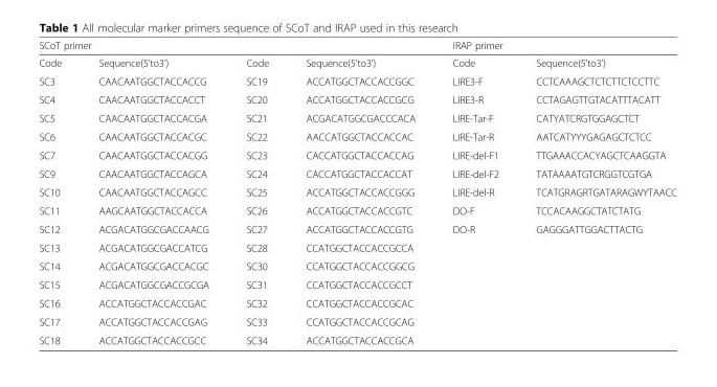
<table><thead><tr><td colspan="4">SCoT primer</td><td colspan="2">IRAP primer</td></tr><tr><td>Code</td><td>Sequence(5’to3’)</td><td>Code</td><td>Sequence(5’to3’)</td><td>Code</td><td>Sequence(5’to3’)</td></tr></thead><tbody><tr><td>SC3</td><td>CAACAATGGCTACCACCG</td><td>SC19</td><td>ACCATGGCTACCACCGGC</td><td>LIRE3-F</td><td>CCTCAAAGCTCTCTTCTCCTTC</td></tr><tr><td>SC4</td><td>CAACAATGGCTACCACCT</td><td>SC20</td><td>ACCATGGCTACCACCGCG</td><td>LIRE3-R</td><td>CCTAGAGTTGTACATTTACATT</td></tr><tr><td>SC5</td><td>CAACAATGGCTACCACGA</td><td>SC21</td><td>ACGACATGGCGACCCACA</td><td>LIRE-Tar-F</td><td>CATYATCRGTGGAGCTCT</td></tr><tr><td>SC6</td><td>CAACAATGGCTACCACGC</td><td>SC22</td><td>AACCATGGCTACCACCAC</td><td>LIRE-Tar-R</td><td>AATCATYYYGAGAGCTCTCC</td></tr><tr><td>SC7</td><td>CAACAATGGCTACCACGG</td><td>SC23</td><td>CACCATGGCTACCACCAG</td><td>LIRE-del-F1</td><td>TTGAAACCACYAGCTCAAGGTA</td></tr><tr><td>SC9</td><td>CAACAATGGCTACCAGCA</td><td>SC24</td><td>CACCATGGCTACCACCAT</td><td>LIRE-del-F2</td><td>TATAAAATGTCRGGTCGTGA</td></tr><tr><td>SC10</td><td>CAACAATGGCTACCAGCC</td><td>SC25</td><td>ACCATGGCTACCACCGGG</td><td>LIRE-del-R</td><td>TCATGRAGRTGATARAGWYTAACC</td></tr><tr><td>SC11</td><td>AAGCAATGGCTACCACCA</td><td>SC26</td><td>ACCATGGCTACCACCGTC</td><td>DO-F</td><td>TCCACAAGGCTATCTATG</td></tr><tr><td>SC12</td><td>ACGACATGGCGACCAACG</td><td>SC27</td><td>ACCATGGCTACCACCGTG</td><td>DO-R</td><td>GAGGGATTGGACTTACTG</td></tr><tr><td>SC13</td><td>ACGACATGGCGACCATCG</td><td>SC28</td><td>CCATGGCTACCACCGCCA</td><td></td><td></td></tr><tr><td>SC14</td><td>ACGACATGGCGACCACGC</td><td>SC30</td><td>CCATGGCTACCACCGGCG</td><td></td><td></td></tr><tr><td>SC15</td><td>ACGACATGGCGACCGCGA</td><td>SC31</td><td>CCATGGCTACCACCGCCT</td><td></td><td></td></tr><tr><td>SC16</td><td>ACCATGGCTACCACCGAC</td><td>SC32</td><td>CCATGGCTACCACCGCAC</td><td></td><td></td></tr><tr><td>SC17</td><td>ACCATGGCTACCACCGAG</td><td>SC33</td><td>CCATGGCTACCACCGCAG</td><td></td><td></td></tr><tr><td>SC18</td><td>ACCATGGCTACCACCGCC</td><td>SC34</td><td>ACCATGGCTACCACCGCA</td><td></td><td></td></tr></tbody></table>